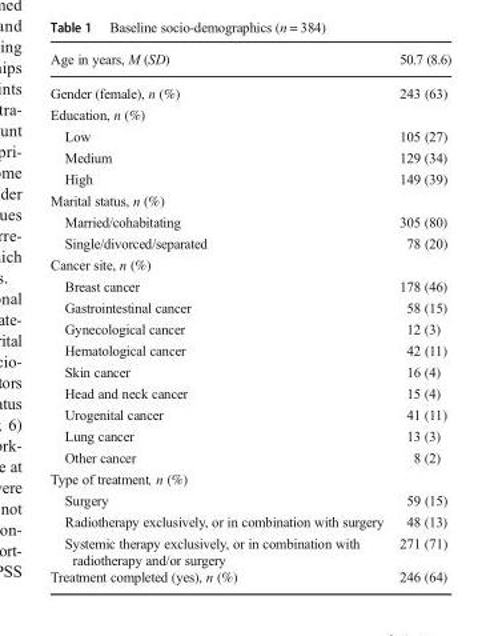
<table><thead><tr><td>Age in years, M (SD)</td><td>50.7 (8.6)</td></tr></thead><tbody><tr><td>Gender (female), n (%)</td><td>243 (63)</td></tr><tr><td colspan="2">Education, n (%)</td></tr><tr><td>Low</td><td>105 (27)</td></tr><tr><td>Medium</td><td>129 (34)</td></tr><tr><td>High</td><td>149 (39)</td></tr><tr><td colspan="2">Marital status, n (%)</td></tr><tr><td>Married/cohabitating</td><td>305 (80)</td></tr><tr><td>Single/divorced/separated</td><td>78 (20)</td></tr><tr><td colspan="2">Cancer site, n (%)</td></tr><tr><td>Breast cancer</td><td>178 (46)</td></tr><tr><td>Gastrointestinal cancer</td><td>58 (15)</td></tr><tr><td>Gynecological cancer</td><td>12 (3)</td></tr><tr><td>Hematological cancer</td><td>42 (11)</td></tr><tr><td>Skin cancer</td><td>16 (4)</td></tr><tr><td>Head and neck cancer</td><td>15 (4)</td></tr><tr><td>Urogenital cancer</td><td>41 (11)</td></tr><tr><td>Lung cancer</td><td>13 (3)</td></tr><tr><td>Other cancer</td><td>8 (2)</td></tr><tr><td colspan="2">Type of treatment, n (%)</td></tr><tr><td>Surgery</td><td>59 (15)</td></tr><tr><td>Radiotherapy exclusively, or in combination with surgery</td><td>48 (13)</td></tr><tr><td>Systemic therapy exclusively, or in combination with radiotherapy and/or surgery</td><td>271 (71)</td></tr><tr><td>Treatment completed (yes), n (%)</td><td>246 (64)</td></tr></tbody></table>